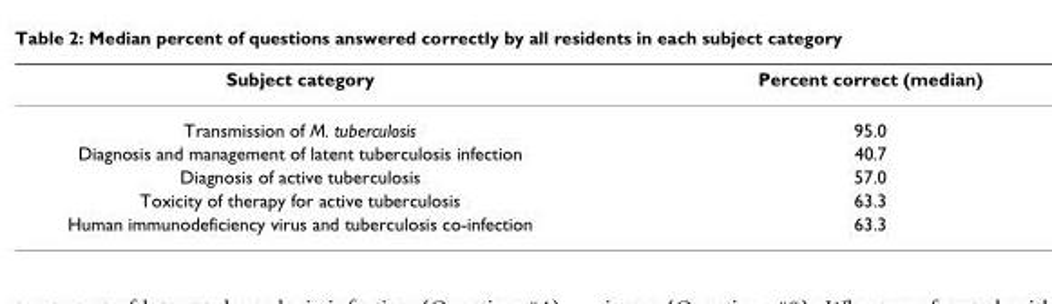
<table><thead><tr><td>Subject category</td><td>Percent correct (median)</td></tr></thead><tbody><tr><td>Transmission of M. tuberculosis</td><td>95.0</td></tr><tr><td>Diagnosis and management of latent tuberculosis infection</td><td>40.7</td></tr><tr><td>Diagnosis of active tuberculosis</td><td>57.0</td></tr><tr><td>Toxicity of therapy for active tuberculosis</td><td>63.3</td></tr><tr><td>Human immunodeficiency virus and tuberculosis co-infection</td><td>63.3</td></tr></tbody></table>